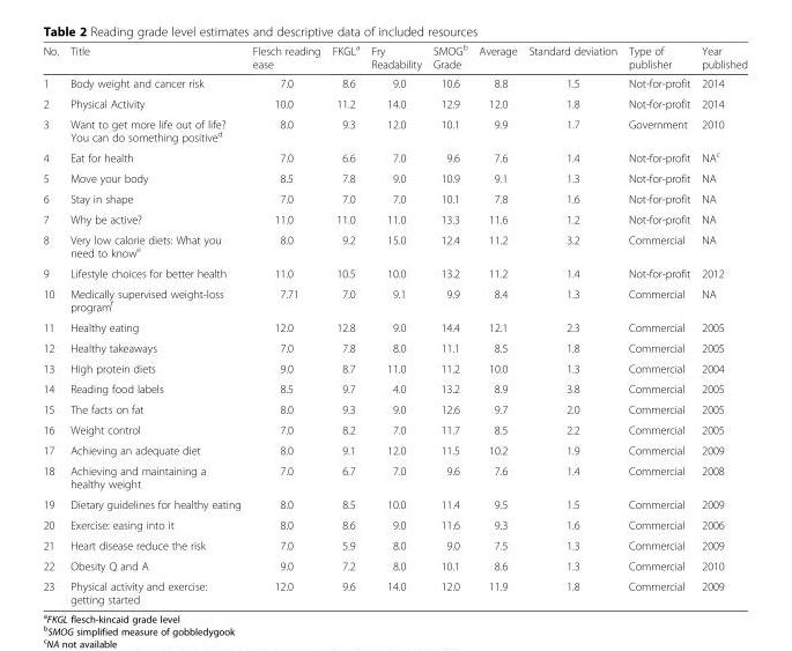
<table><thead><tr><td>No.</td><td>Title</td><td>Flesch reading ease</td><td>FKGL<sup>a</sup></td><td>Fry Readability</td><td>SMOG<sup>b</sup> Grade</td><td>Average</td><td>Standard deviation</td><td>Type of publisher</td><td>Year published</td></tr></thead><tbody><tr><td>1</td><td>Body weight and cancer risk</td><td>7.0</td><td>8.6</td><td>9.0</td><td>10.6</td><td>8.8</td><td>1.5</td><td>Not-for-profit</td><td>2014</td></tr><tr><td>2</td><td>Physical Activity</td><td>10.0</td><td>11.2</td><td>14.0</td><td>12.9</td><td>12.0</td><td>1.8</td><td>Not-for-profit</td><td>2014</td></tr><tr><td>3</td><td>Want to get more life out of life? You can do something positive<sup>d</sup></td><td>8.0</td><td>9.3</td><td>12.0</td><td>10.1</td><td>9.9</td><td>1.7</td><td>Government</td><td>2010</td></tr><tr><td>4</td><td>Eat for health</td><td>7.0</td><td>6.6</td><td>7.0</td><td>9.6</td><td>7.6</td><td>1.4</td><td>Not-for-profit</td><td>NA<sup>c</sup></td></tr><tr><td>5</td><td>Move your body</td><td>8.5</td><td>7.8</td><td>9.0</td><td>10.9</td><td>9.1</td><td>1.3</td><td>Not-for-profit</td><td>NA</td></tr><tr><td>6</td><td>Stay in shape</td><td>7.0</td><td>7.0</td><td>7.0</td><td>10.1</td><td>7.8</td><td>1.6</td><td>Not-for-profit</td><td>NA</td></tr><tr><td>7</td><td>Why be active?</td><td>11.0</td><td>11.0</td><td>11.0</td><td>13.3</td><td>11.6</td><td>1.2</td><td>Not-for-profit</td><td>NA</td></tr><tr><td>8</td><td>Very low calorie diets: What you need to know<sup>e</sup></td><td>8.0</td><td>9.2</td><td>15.0</td><td>12.4</td><td>11.2</td><td>3.2</td><td>Commercial</td><td>NA</td></tr><tr><td>9</td><td>Lifestyle choices for better health</td><td>11.0</td><td>10.5</td><td>10.0</td><td>13.2</td><td>11.2</td><td>1.4</td><td>Not-for-profit</td><td>2012</td></tr><tr><td>10</td><td>Medically supervised weight-loss program<sup>f</sup></td><td>7.71</td><td>7.0</td><td>9.1</td><td>9.9</td><td>8.4</td><td>1.3</td><td>Commercial</td><td>NA</td></tr><tr><td>11</td><td>Healthy eating</td><td>12.0</td><td>12.8</td><td>9.0</td><td>14.4</td><td>12.1</td><td>2.3</td><td>Commercial</td><td>2005</td></tr><tr><td>12</td><td>Healthy takeaways</td><td>7.0</td><td>7.8</td><td>8.0</td><td>11.1</td><td>8.5</td><td>1.8</td><td>Commercial</td><td>2005</td></tr><tr><td>13</td><td>High protein diets</td><td>9.0</td><td>8.7</td><td>11.0</td><td>11.2</td><td>10.0</td><td>1.3</td><td>Commercial</td><td>2004</td></tr><tr><td>14</td><td>Reading food labels</td><td>8.5</td><td>9.7</td><td>4.0</td><td>13.2</td><td>8.9</td><td>3.8</td><td>Commercial</td><td>2005</td></tr><tr><td>15</td><td>The facts on fat</td><td>8.0</td><td>9.3</td><td>9.0</td><td>12.6</td><td>9.7</td><td>2.0</td><td>Commercial</td><td>2005</td></tr><tr><td>16</td><td>Weight control</td><td>7.0</td><td>8.2</td><td>7.0</td><td>11.7</td><td>8.5</td><td>2.2</td><td>Commercial</td><td>2005</td></tr><tr><td>17</td><td>Achieving an adequate diet</td><td>8.0</td><td>9.1</td><td>12.0</td><td>11.5</td><td>10.2</td><td>1.9</td><td>Commercial</td><td>2009</td></tr><tr><td>18</td><td>Achieving and maintaining a healthy weight</td><td>7.0</td><td>6.7</td><td>7.0</td><td>9.6</td><td>7.6</td><td>1.4</td><td>Commercial</td><td>2008</td></tr><tr><td>19</td><td>Dietary guidelines for healthy eating</td><td>8.0</td><td>8.5</td><td>10.0</td><td>11.4</td><td>9.5</td><td>1.5</td><td>Commercial</td><td>2009</td></tr><tr><td>20</td><td>Exercise: easing into it</td><td>8.0</td><td>8.6</td><td>9.0</td><td>11.6</td><td>9.3</td><td>1.6</td><td>Commercial</td><td>2006</td></tr><tr><td>21</td><td>Heart disease reduce the risk</td><td>7.0</td><td>5.9</td><td>8.0</td><td>9.0</td><td>7.5</td><td>1.3</td><td>Commercial</td><td>2009</td></tr><tr><td>22</td><td>Obesity Q and A</td><td>9.0</td><td>7.2</td><td>8.0</td><td>10.1</td><td>8.6</td><td>1.3</td><td>Commercial</td><td>2010</td></tr><tr><td>23</td><td>Physical activity and exercise: getting started</td><td>12.0</td><td>9.6</td><td>14.0</td><td>12.0</td><td>11.9</td><td>1.8</td><td>Commercial</td><td>2009</td></tr></tbody></table>